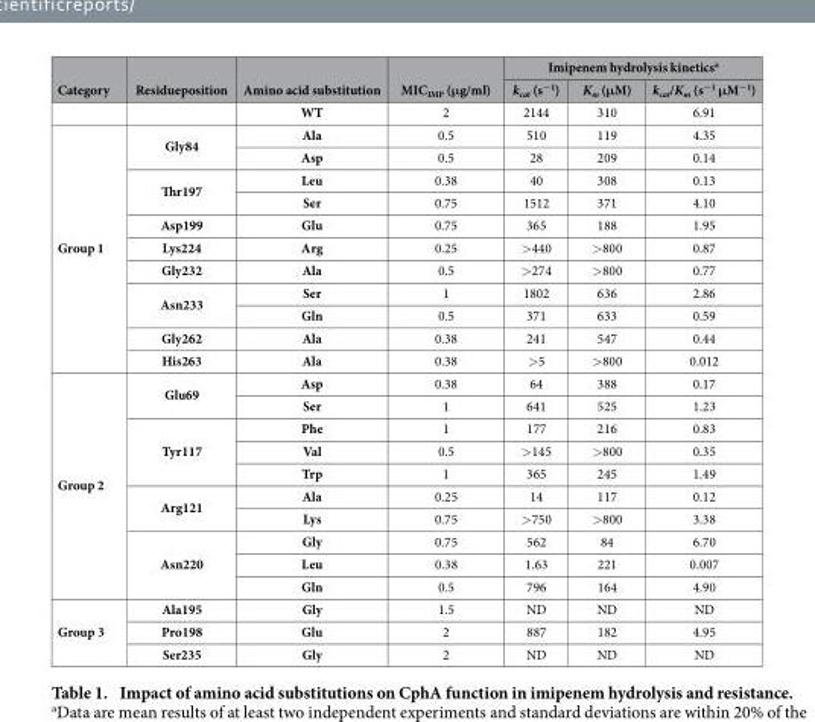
<table><thead><tr><td rowspan="2">Category</td><td rowspan="2">Residueposition</td><td rowspan="2">Amino acid substitution</td><td rowspan="2">MIC<sub>IMP</sub> (μg/ml)</td><td colspan="3">Imipenem hydrolysis kinetics<sup>a</sup></td></tr><tr><td>k<sub>cat</sub> (s<sup>−1</sup>)</td><td>K<sub>m</sub> (μM)</td><td>k<sub>cat</sub>/K<sub>m</sub> (s<sup>−1</sup> μM<sup>−1</sup>)</td></tr></thead><tbody><tr><td></td><td></td><td>WT</td><td>2</td><td>2144</td><td>310</td><td>6.91</td></tr><tr><td rowspan="11">Group 1</td><td rowspan="2">Gly84</td><td>Ala</td><td>0.5</td><td>510</td><td>119</td><td>4.35</td></tr><tr><td>Asp</td><td>0.5</td><td>28</td><td>209</td><td>0.14</td></tr><tr><td rowspan="2">Thr197</td><td>Leu</td><td>0.38</td><td>40</td><td>308</td><td>0.13</td></tr><tr><td>Ser</td><td>0.75</td><td>1512</td><td>371</td><td>4.10</td></tr><tr><td>Asp199</td><td>Glu</td><td>0.75</td><td>365</td><td>188</td><td>1.95</td></tr><tr><td>Lys224</td><td>Arg</td><td>0.25</td><td>&gt; 440</td><td>&gt; 800</td><td>0.87</td></tr><tr><td>Gly232</td><td>Ala</td><td>0.5</td><td>&gt; 274</td><td>&gt; 800</td><td>0.77</td></tr><tr><td rowspan="2">Asn233</td><td>Ser</td><td>1</td><td>1802</td><td>636</td><td>2.86</td></tr><tr><td>Gln</td><td>0.5</td><td>371</td><td>633</td><td>0.59</td></tr><tr><td>Gly262</td><td>Ala</td><td>0.38</td><td>241</td><td>547</td><td>0.44</td></tr><tr><td>His263</td><td>Ala</td><td>0.38</td><td>&gt; 5</td><td>&gt; 800</td><td>0.012</td></tr><tr><td rowspan="10">Group 2</td><td rowspan="2">Glu69</td><td>Asp</td><td>0.38</td><td>64</td><td>388</td><td>0.17</td></tr><tr><td>Ser</td><td>1</td><td>641</td><td>525</td><td>1.23</td></tr><tr><td rowspan="3">Tyr117</td><td>Phe</td><td>1</td><td>177</td><td>216</td><td>0.83</td></tr><tr><td>Val</td><td>0.5</td><td>&gt; 145</td><td>&gt; 800</td><td>0.35</td></tr><tr><td>Trp</td><td>1</td><td>365</td><td>245</td><td>1.49</td></tr><tr><td rowspan="2">Arg121</td><td>Ala</td><td>0.25</td><td>14</td><td>117</td><td>0.12</td></tr><tr><td>Lys</td><td>0.75</td><td>&gt; 750</td><td>&gt; 800</td><td>3.38</td></tr><tr><td rowspan="3">Asn220</td><td>Gly</td><td>0.75</td><td>562</td><td>84</td><td>6.70</td></tr><tr><td>Leu</td><td>0.38</td><td>1.63</td><td>221</td><td>0.007</td></tr><tr><td>Gln</td><td>0.5</td><td>796</td><td>164</td><td>4.90</td></tr><tr><td rowspan="3">Group 3</td><td>Ala195</td><td>Gly</td><td>1.5</td><td>ND</td><td>ND</td><td>ND</td></tr><tr><td>Pro198</td><td>Glu</td><td>2</td><td>887</td><td>182</td><td>4.95</td></tr><tr><td>Ser235</td><td>Gly</td><td>2</td><td>ND</td><td>ND</td><td>ND</td></tr></tbody></table>